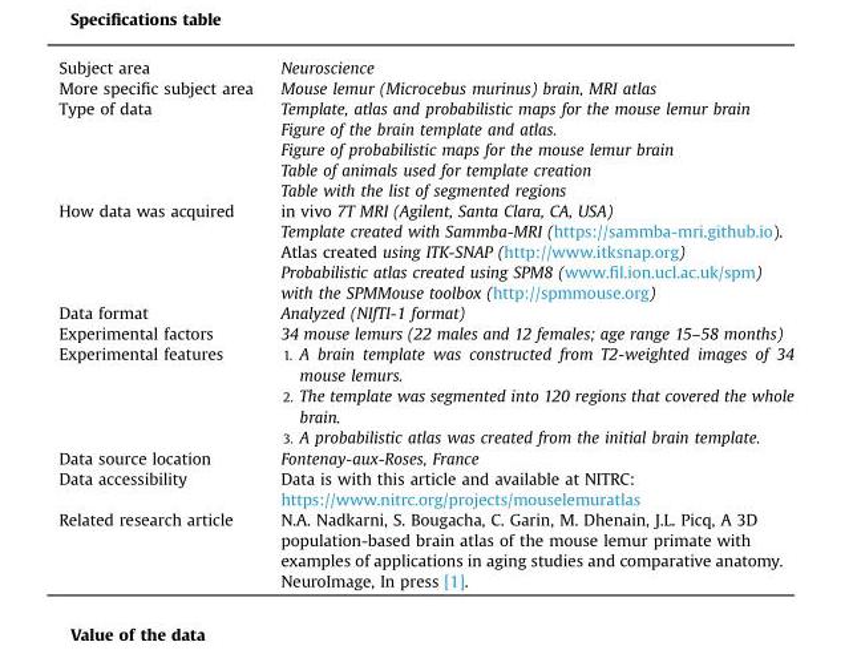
<table><thead><tr><td>Subject area</td><td>Neuroscience</td></tr></thead><tbody><tr><td>More specific subject area</td><td>Mouse lemur (Microcebus murinus) brain, MRI atlas</td></tr><tr><td rowspan="5">Type of data</td><td>Template, atlas and probabilistic maps for the mouse lemur brain</td></tr><tr><td>Figure of the brain template and atlas.</td></tr><tr><td>Figure of probabilistic maps for the mouse lemur brain</td></tr><tr><td>Table of animals used for template creation</td></tr><tr><td>Table with the list of segmented regions</td></tr><tr><td rowspan="4">How data was acquired</td><td>in vivo 7T MRI (Agilent, Santa Clara, CA, USA)</td></tr><tr><td>Template created with Sammba-MRI (https://sammba-mri.github.io).</td></tr><tr><td>Atlas created using ITK-SNAP (http://www.itksnap.org)</td></tr><tr><td>Probabilistic atlas created using SPM8 (www.fil.ion.ucl.ac.uk/spm) with the SPMMouse toolbox (http://spmmouse.org)</td></tr><tr><td>Data format</td><td>Analyzed (NIfTI-1 format)</td></tr><tr><td>Experimental factors</td><td>34 mouse lemurs (22 males and 12 females; age range 15–58 months)</td></tr><tr><td>Experimental features</td><td>1. A brain template was constructed from T2-weighted images of 34 mouse lemurs. 2. The template was segmented into 120 regions that covered the whole brain. 3. A probabilistic atlas was created from the initial brain template.</td></tr><tr><td>Data source location</td><td>Fontenay-aux-Roses, France</td></tr><tr><td rowspan="2">Data accessibility</td><td>Data is with this article and available at NITRC:</td></tr><tr><td>https://www.nitrc.org/projects/mouselemuratlas</td></tr><tr><td>Related research article</td><td>N.A. Nadkarni, S. Bougacha, C. Garin, M. Dhenain, J.L. Picq, A 3D population-based brain atlas of the mouse lemur primate with examples of applications in aging studies and comparative anatomy. NeuroImage, In press [1].</td></tr></tbody></table>